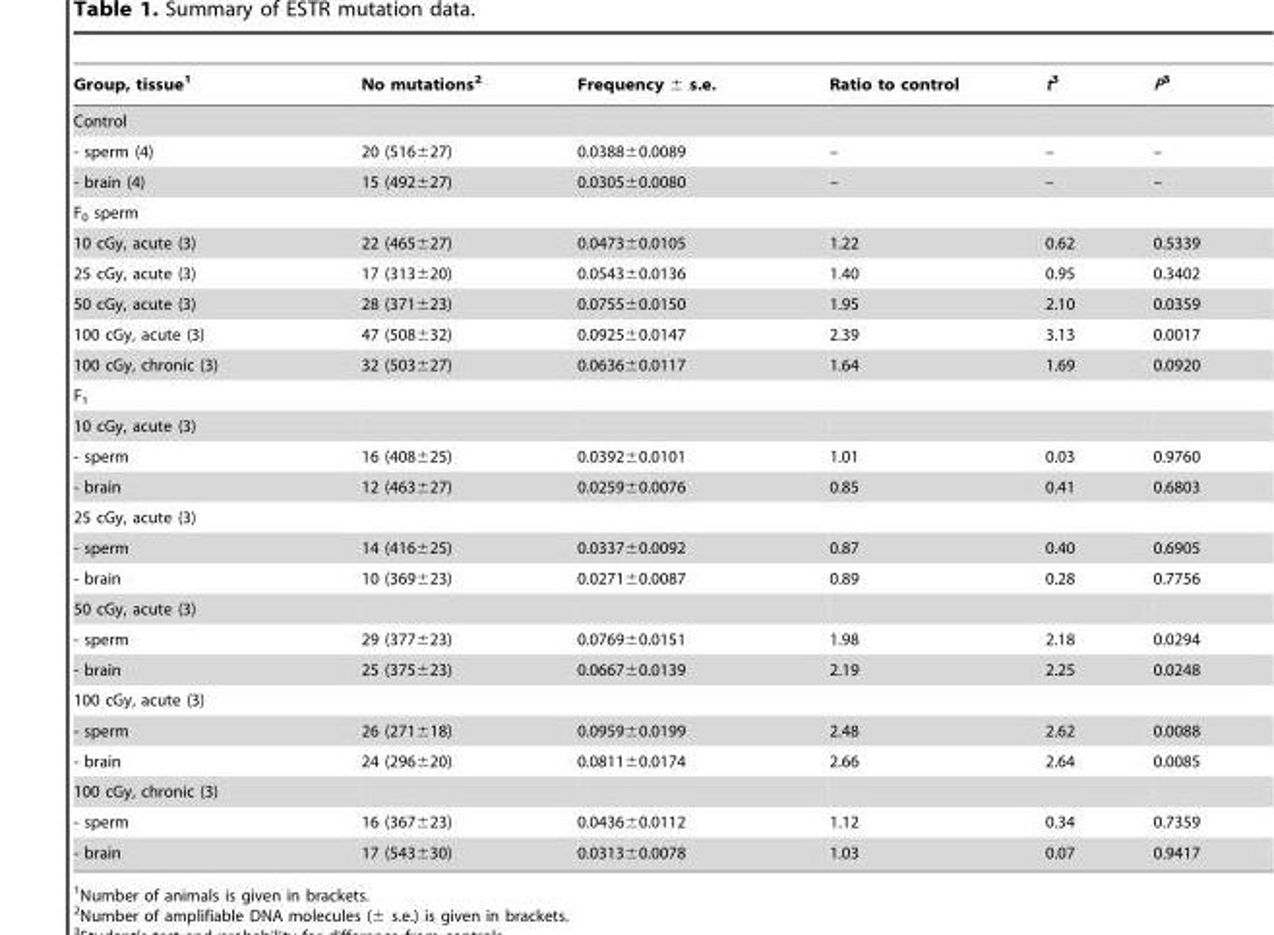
<table><thead><tr><td>Group, tissue<sup>1</sup></td><td>No mutations<sup>2</sup></td><td>Frequency ± s.e.</td><td>Ratio to control</td><td>t3</td><td>P3</td></tr></thead><tbody><tr><td colspan="6">Control</td></tr><tr><td>- sperm (4)</td><td>20 (516±27)</td><td>0.0388±0.0089</td><td>–</td><td>–</td><td>–</td></tr><tr><td>- brain (4)</td><td>15 (492±27)</td><td>0.0305±0.0080</td><td>–</td><td>–</td><td>–</td></tr><tr><td colspan="6">F<sub>0</sub> sperm</td></tr><tr><td>10 cGy, acute (3)</td><td>22 (465±27)</td><td>0.0473±0.0105</td><td>1.22</td><td>0.62</td><td>0.5339</td></tr><tr><td>25 cGy, acute (3)</td><td>17 (313±20)</td><td>0.0543±0.0136</td><td>1.40</td><td>0.95</td><td>0.3402</td></tr><tr><td>50 cGy, acute (3)</td><td>28 (371±23)</td><td>0.0755±0.0150</td><td>1.95</td><td>2.10</td><td>0.0359</td></tr><tr><td>100 cGy, acute (3)</td><td>47 (508±32)</td><td>0.0925±0.0147</td><td>2.39</td><td>3.13</td><td>0.0017</td></tr><tr><td>100 cGy, chronic (3)</td><td>32 (503±27)</td><td>0.0636±0.0117</td><td>1.64</td><td>1.69</td><td>0.0920</td></tr><tr><td colspan="6">F<sub>1</sub></td></tr><tr><td colspan="6">10 cGy, acute (3)</td></tr><tr><td>- sperm</td><td>16 (408±25)</td><td>0.0392±0.0101</td><td>1.01</td><td>0.03</td><td>0.9760</td></tr><tr><td>- brain</td><td>12 (463±27)</td><td>0.0259±0.0076</td><td>0.85</td><td>0.41</td><td>0.6803</td></tr><tr><td colspan="6">25 cGy, acute (3)</td></tr><tr><td>- sperm</td><td>14 (416±25)</td><td>0.0337±0.0092</td><td>0.87</td><td>0.40</td><td>0.6905</td></tr><tr><td>- brain</td><td>10 (369±23)</td><td>0.0271±0.0087</td><td>0.89</td><td>0.28</td><td>0.7756</td></tr><tr><td colspan="6">50 cGy, acute (3)</td></tr><tr><td>- sperm</td><td>29 (377±23)</td><td>0.0769±0.0151</td><td>1.98</td><td>2.18</td><td>0.0294</td></tr><tr><td>- brain</td><td>25 (375±23)</td><td>0.0667±0.0139</td><td>2.19</td><td>2.25</td><td>0.0248</td></tr><tr><td colspan="6">100 cGy, acute (3)</td></tr><tr><td>- sperm</td><td>26 (271±18)</td><td>0.0959±0.0199</td><td>2.48</td><td>2.62</td><td>0.0088</td></tr><tr><td>- brain</td><td>24 (296±20)</td><td>0.0811±0.0174</td><td>2.66</td><td>2.64</td><td>0.0085</td></tr><tr><td colspan="6">100 cGy, chronic (3)</td></tr><tr><td>- sperm</td><td>16 (367±23)</td><td>0.0436±0.0112</td><td>1.12</td><td>0.34</td><td>0.7359</td></tr><tr><td>- brain</td><td>17 (543±30)</td><td>0.0313±0.0078</td><td>1.03</td><td>0.07</td><td>0.9417</td></tr></tbody></table>